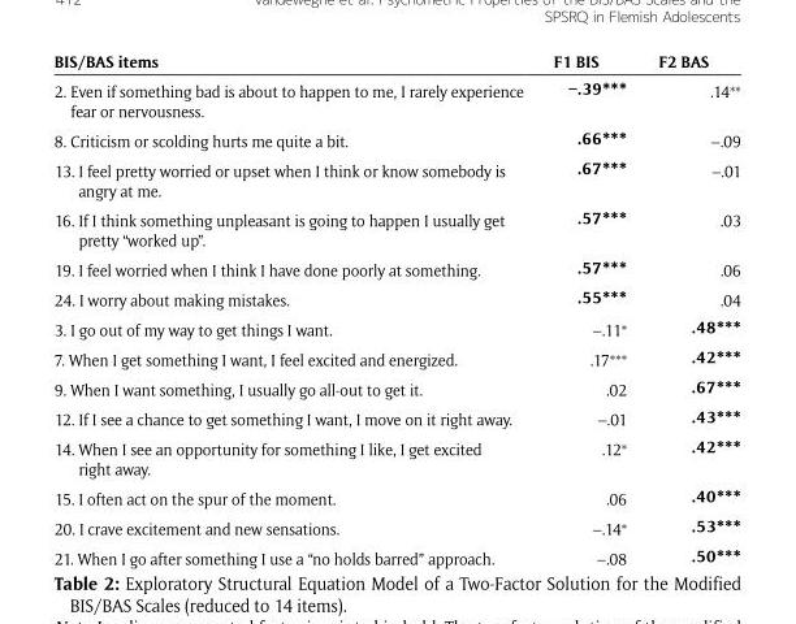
<table><thead><tr><td>BIS/BAS items</td><td>F1 BIS</td><td>F2 BAS</td></tr></thead><tbody><tr><td>2. Even if something bad is about to happen to me, I rarely experience fear or nervousness.</td><td>–.39***</td><td>.14**</td></tr><tr><td>8. Criticism or scolding hurts me quite a bit.</td><td>.66***</td><td>–.09</td></tr><tr><td>13. I feel pretty worried or upset when I think or know somebody is angry at me.</td><td>.67***</td><td>–.01</td></tr><tr><td>16. If I think something unpleasant is going to happen I usually get pretty “worked up”.</td><td>.57***</td><td>.03</td></tr><tr><td>19. I feel worried when I think I have done poorly at something.</td><td>.57***</td><td>.06</td></tr><tr><td>24. I worry about making mistakes.</td><td>.55***</td><td>.04</td></tr><tr><td>3. I go out of my way to get things I want.</td><td>–.11*</td><td>.48***</td></tr><tr><td>7. When I get something I want, I feel excited and energized.</td><td>.17***</td><td>.42***</td></tr><tr><td>9. When I want something, I usually go all-out to get it.</td><td>.02</td><td>.67***</td></tr><tr><td>12. If I see a chance to get something I want, I move on it right away.</td><td>–.01</td><td>.43***</td></tr><tr><td>14. When I see an opportunity for something I like, I get excited right away.</td><td>.12*</td><td>.42***</td></tr><tr><td>15. I often act on the spur of the moment.</td><td>.06</td><td>.40***</td></tr><tr><td>20. I crave excitement and new sensations.</td><td>–.14*</td><td>.53***</td></tr><tr><td>21. When I go after something I use a “no holds barred” approach.</td><td>–.08</td><td>.50***</td></tr></tbody></table>